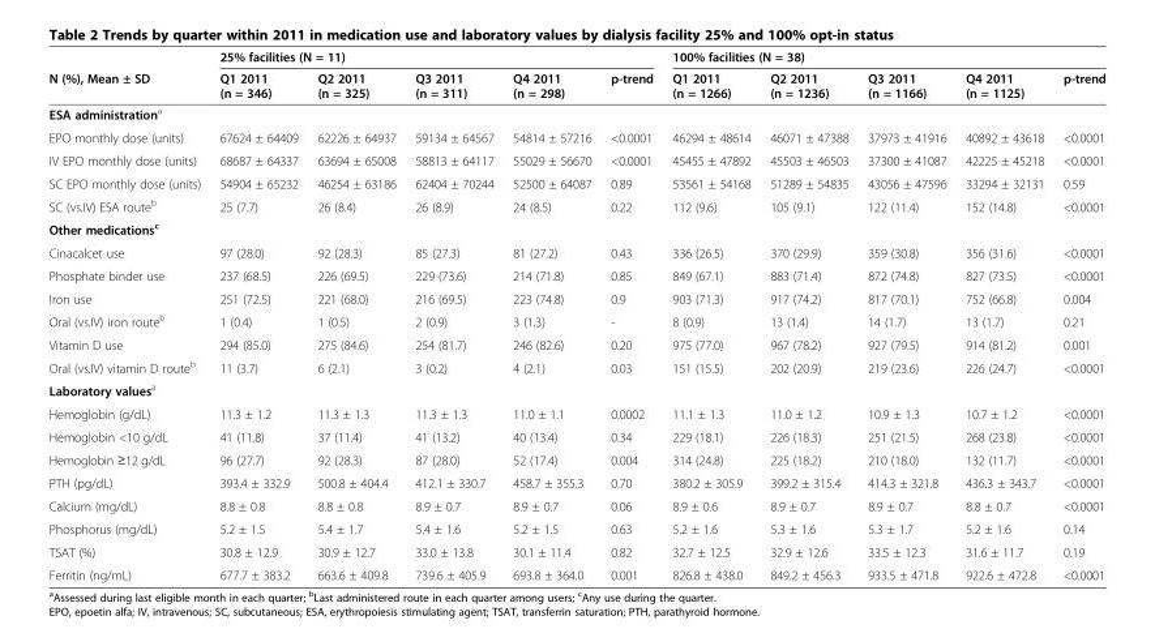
<table><thead><tr><td rowspan="2">N (%), Mean ± SD</td><td colspan="5">25% facilities (N = 11)</td><td colspan="5">100% facilities (N = 38)</td></tr><tr><td>Q1 2011 (n = 346)</td><td>Q2 2011 (n = 325)</td><td>Q3 2011 (n = 311)</td><td>Q4 2011 (n = 298)</td><td>p-trend</td><td>Q1 2011 (n = 1266)</td><td>Q2 2011 (n = 1236)</td><td>Q3 2011 (n = 1166)</td><td>Q4 2011 (n = 1125)</td><td>p-trend</td></tr></thead><tbody><tr><td colspan="11">ESA administration<sup>a</sup></td></tr><tr><td>EPO monthly dose (units)</td><td>67624 ± 64409</td><td>62226 ± 64937</td><td>59134 ± 64567</td><td>54814 ± 57216</td><td>&lt;0.0001</td><td>46294 ± 48614</td><td>46071 ± 47388</td><td>37973 ± 41916</td><td>40892 ± 43618</td><td>&lt;0.0001</td></tr><tr><td>IV EPO monthly dose (units)</td><td>68687 ± 64337</td><td>63694 ± 65008</td><td>58813 ± 64117</td><td>55029 ± 56670</td><td>&lt;0.0001</td><td>45455 ± 47892</td><td>45503 ± 46503</td><td>37300 ± 41087</td><td>42225 ± 45218</td><td>&lt;0.0001</td></tr><tr><td>SC EPO monthly dose (units)</td><td>54904 ± 65232</td><td>46254 ± 63186</td><td>62404 ± 70244</td><td>52500 ± 64087</td><td>0.89</td><td>53561 ± 54168</td><td>51289 ± 54835</td><td>43056 ± 47596</td><td>33294 ± 32131</td><td>0.59</td></tr><tr><td>SC (vs.IV) ESA route<sup>b</sup></td><td>25 (7.7)</td><td>26 (8.4)</td><td>26 (8.9)</td><td>24 (8.5)</td><td>0.22</td><td>112 (9.6)</td><td>105 (9.1)</td><td>122 (11.4)</td><td>152 (14.8)</td><td>&lt;0.0001</td></tr><tr><td colspan="11">Other medications<sup>c</sup></td></tr><tr><td>Cinacalcet use</td><td>97 (28.0)</td><td>92 (28.3)</td><td>85 (27.3)</td><td>81 (27.2)</td><td>0.43</td><td>336 (26.5)</td><td>370 (29.9)</td><td>359 (30.8)</td><td>356 (31.6)</td><td>&lt;0.0001</td></tr><tr><td>Phosphate binder use</td><td>237 (68.5)</td><td>226 (69.5)</td><td>229 (73.6)</td><td>214 (71.8)</td><td>0.85</td><td>849 (67.1)</td><td>883 (71.4)</td><td>872 (74.8)</td><td>827 (73.5)</td><td>&lt;0.0001</td></tr><tr><td>Iron use</td><td>251 (72.5)</td><td>221 (68.0)</td><td>216 (69.5)</td><td>223 (74.8)</td><td>0.9</td><td>903 (71.3)</td><td>917 (74.2)</td><td>817 (70.1)</td><td>752 (66.8)</td><td>0.004</td></tr><tr><td>Oral (vs.IV) iron route<sup>b</sup></td><td>1 (0.4)</td><td>1 (0.5)</td><td>2 (0.9)</td><td>3 (1.3)</td><td>-</td><td>8 (0.9)</td><td>13 (1.4)</td><td>14 (1.7)</td><td>13 (1.7)</td><td>0.21</td></tr><tr><td>Vitamin D use</td><td>294 (85.0)</td><td>275 (84.6)</td><td>254 (81.7)</td><td>246 (82.6)</td><td>0.20</td><td>975 (77.0)</td><td>967 (78.2)</td><td>927 (79.5)</td><td>914 (81.2)</td><td>0.001</td></tr><tr><td>Oral (vs.IV) vitamin D route<sup>b</sup></td><td>11 (3.7)</td><td>6 (2.1)</td><td>3 (0.2)</td><td>4 (2.1)</td><td>0.03</td><td>151 (15.5)</td><td>202 (20.9)</td><td>219 (23.6)</td><td>226 (24.7)</td><td>&lt;0.0001</td></tr><tr><td colspan="11">Laboratory values<sup>a</sup></td></tr><tr><td>Hemoglobin (g/dL)</td><td>11.3 ± 1.2</td><td>11.3 ± 1.3</td><td>11.3 ± 1.3</td><td>11.0 ± 1.1</td><td>0.0002</td><td>11.1 ± 1.3</td><td>11.0 ± 1.2</td><td>10.9 ± 1.3</td><td>10.7 ± 1.2</td><td>&lt;0.0001</td></tr><tr><td>Hemoglobin &lt;10 g/dL</td><td>41 (11.8)</td><td>37 (11.4)</td><td>41 (13.2)</td><td>40 (13.4)</td><td>0.34</td><td>229 (18.1)</td><td>226 (18.3)</td><td>251 (21.5)</td><td>268 (23.8)</td><td>&lt;0.0001</td></tr><tr><td>Hemoglobin ≥12 g/dL</td><td>96 (27.7)</td><td>92 (28.3)</td><td>87 (28.0)</td><td>52 (17.4)</td><td>0.004</td><td>314 (24.8)</td><td>225 (18.2)</td><td>210 (18.0)</td><td>132 (11.7)</td><td>&lt;0.0001</td></tr><tr><td>PTH (pg/dL)</td><td>393.4 ± 332.9</td><td>500.8 ± 404.4</td><td>412.1 ± 330.7</td><td>458.7 ± 355.3</td><td>0.70</td><td>380.2 ± 305.9</td><td>399.2 ± 315.4</td><td>414.3 ± 321.8</td><td>436.3 ± 343.7</td><td>&lt;0.0001</td></tr><tr><td>Calcium (mg/dL)</td><td>8.8 ± 0.8</td><td>8.8 ± 0.8</td><td>8.9 ± 0.7</td><td>8.9 ± 0.7</td><td>0.06</td><td>8.9 ± 0.6</td><td>8.9 ± 0.7</td><td>8.9 ± 0.7</td><td>8.8 ± 0.7</td><td>&lt;0.0001</td></tr><tr><td>Phosphorus (mg/dL)</td><td>5.2 ± 1.5</td><td>5.4 ± 1.7</td><td>5.4 ± 1.6</td><td>5.2 ± 1.5</td><td>0.63</td><td>5.2 ± 1.6</td><td>5.3 ± 1.6</td><td>5.3 ± 1.7</td><td>5.2 ± 1.6</td><td>0.14</td></tr><tr><td>TSAT (%)</td><td>30.8 ± 12.9</td><td>30.9 ± 12.7</td><td>33.0 ± 13.8</td><td>30.1 ± 11.4</td><td>0.82</td><td>32.7 ± 12.5</td><td>32.9 ± 12.6</td><td>33.5 ± 12.3</td><td>31.6 ± 11.7</td><td>0.19</td></tr><tr><td>Ferritin (ng/mL)</td><td>677.7 ± 383.2</td><td>663.6 ± 409.8</td><td>739.6 ± 405.9</td><td>693.8 ± 364.0</td><td>0.001</td><td>826.8 ± 438.0</td><td>849.2 ± 456.3</td><td>933.5 ± 471.8</td><td>922.6 ± 472.8</td><td>&lt;0.0001</td></tr></tbody></table>